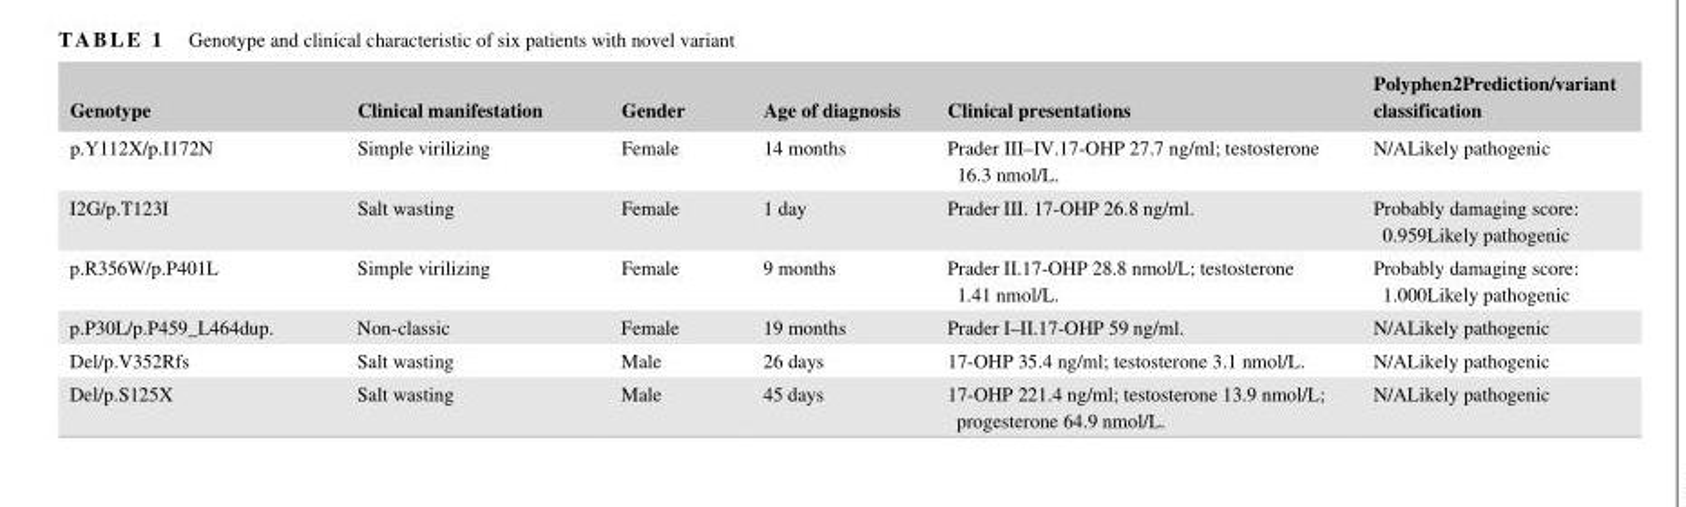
<table><thead><tr><td>Genotype</td><td>Clinical manifestation</td><td>Gender</td><td>Age of diagnosis</td><td>Clinical presentations</td><td>Polyphen2Prediction/variant classification</td></tr></thead><tbody><tr><td>p.Y112X/p.I172N</td><td>Simple virilizing</td><td>Female</td><td>14 months</td><td>Prader III–IV.17‐OHP 27.7 ng/ml; testosterone 16.3 nmol/L.</td><td>N/ALikely pathogenic</td></tr><tr><td>I2G/p.T123I</td><td>Salt wasting</td><td>Female</td><td>1 day</td><td>Prader III. 17‐OHP 26.8 ng/ml.</td><td>Probably damaging score: 0.959Likely pathogenic</td></tr><tr><td>p.R356W/p.P401L</td><td>Simple virilizing</td><td>Female</td><td>9 months</td><td>Prader II.17‐OHP 28.8 nmol/L; testosterone 1.41 nmol/L.</td><td>Probably damaging score: 1.000Likely pathogenic</td></tr><tr><td>p.P30L/p.P459_L464dup.</td><td>Non‐classic</td><td>Female</td><td>19 months</td><td>Prader I–II.17‐OHP 59 ng/ml.</td><td>N/ALikely pathogenic</td></tr><tr><td>Del/p.V352Rfs</td><td>Salt wasting</td><td>Male</td><td>26 days</td><td>17‐OHP 35.4 ng/ml; testosterone 3.1 nmol/L.</td><td>N/ALikely pathogenic</td></tr><tr><td>Del/p.S125X</td><td>Salt wasting</td><td>Male</td><td>45 days</td><td>17‐OHP 221.4 ng/ml; testosterone 13.9 nmol/L; progesterone 64.9 nmol/L.</td><td>N/ALikely pathogenic</td></tr></tbody></table>